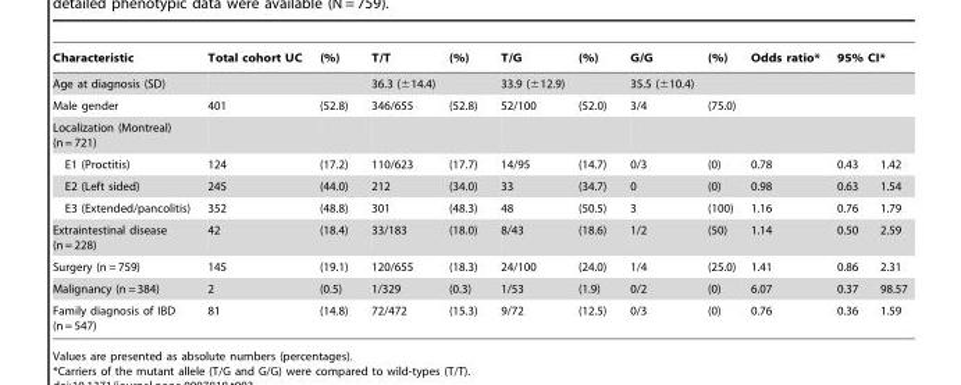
<table><thead><tr><td rowspan="2">Characteristic Age at diagnosis (SD)</td><td rowspan="2">Total cohort UC</td><td rowspan="2">(%)</td><td>T/T</td><td>(%)</td><td>T/G</td><td>(%)</td><td>G/G</td><td>(%)</td><td rowspan="2">Odds ratio*</td><td colspan="2">95% CI*</td></tr><tr><td colspan="2">36.3 (±14.4)</td><td colspan="2">33.9 (±12.9)</td><td colspan="2">35.5 (±10.4)</td><td></td><td></td></tr></thead><tbody><tr><td>Male gender</td><td>401</td><td>(52.8)</td><td>346/655</td><td>(52.8)</td><td>52/100</td><td>(52.0)</td><td>3/4</td><td>(75.0)</td><td></td><td></td><td></td></tr><tr><td colspan="12">Localization (Montreal) (n = 721)</td></tr><tr><td>E1 (Proctitis)</td><td>124</td><td>(17.2)</td><td>110/623</td><td>(17.7)</td><td>14/95</td><td>(14.7)</td><td>0/3</td><td>(0)</td><td>0.78</td><td>0.43</td><td>1.42</td></tr><tr><td>E2 (Left sided)</td><td>245</td><td>(44.0)</td><td>212</td><td>(34.0)</td><td>33</td><td>(34.7)</td><td>0</td><td>(0)</td><td>0.98</td><td>0.63</td><td>1.54</td></tr><tr><td>E3 (Extended/pancolitis)</td><td>352</td><td>(48.8)</td><td>301</td><td>(48.3)</td><td>48</td><td>(50.5)</td><td>3</td><td>(100)</td><td>1.16</td><td>0.76</td><td>1.79</td></tr><tr><td>Extraintestinal disease (n = 228)</td><td>42</td><td>(18.4)</td><td>33/183</td><td>(18.0)</td><td>8/43</td><td>(18.6)</td><td>1/2</td><td>(50)</td><td>1.14</td><td>0.50</td><td>2.59</td></tr><tr><td>Surgery (n = 759)</td><td>145</td><td>(19.1)</td><td>120/655</td><td>(18.3)</td><td>24/100</td><td>(24.0)</td><td>1/4</td><td>(25.0)</td><td>1.41</td><td>0.86</td><td>2.31</td></tr><tr><td>Malignancy (n = 384)</td><td>2</td><td>(0.5)</td><td>1/329</td><td>(0.3)</td><td>1/53</td><td>(1.9)</td><td>0/2</td><td>(0)</td><td>6.07</td><td>0.37</td><td>98.57</td></tr><tr><td>Family diagnosis of IBD (n = 547)</td><td>81</td><td>(14.8)</td><td>72/472</td><td>(15.3)</td><td>9/72</td><td>(12.5)</td><td>0/3</td><td>(0)</td><td>0.76</td><td>0.36</td><td>1.59</td></tr></tbody></table>